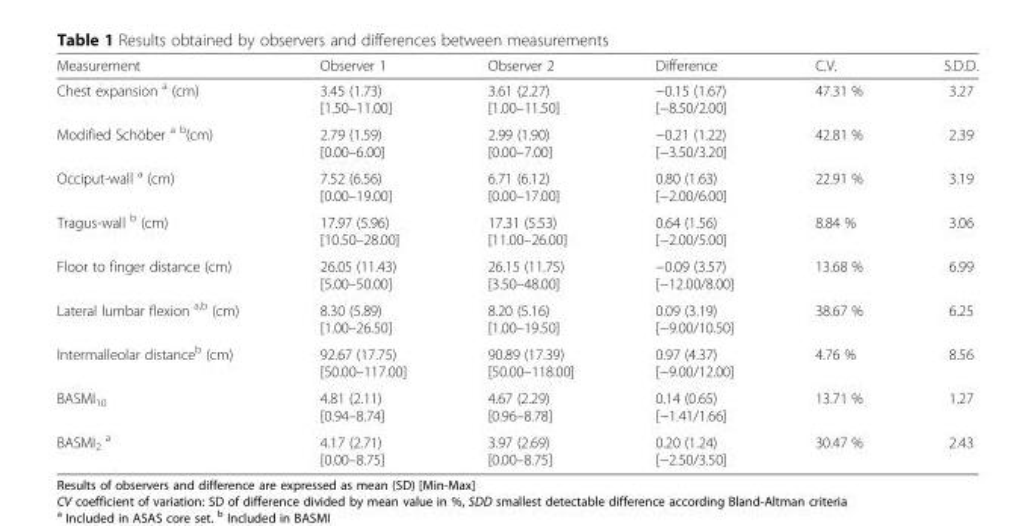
<table><thead><tr><td>Measurement</td><td>Observer 1</td><td>Observer 2</td><td>Difference</td><td>C.V.</td><td>S.D.D.</td></tr></thead><tbody><tr><td>Chest expansion <sup>a</sup> (cm)</td><td>3.45 (1.73) [1.50–11.00]</td><td>3.61 (2.27) [1.00–11.50]</td><td>−0.15 (1.67) [−8.50/2.00]</td><td>47.31 %</td><td>3.27</td></tr><tr><td>Modified Schöber <sup>a b</sup>(cm)</td><td>2.79 (1.59) [0.00–6.00]</td><td>2.99 (1.90) [0.00–7.00]</td><td>−0.21 (1.22) [−3.50/3.20]</td><td>42.81 %</td><td>2.39</td></tr><tr><td>Occiput-wall <sup>a</sup> (cm)</td><td>7.52 (6.56) [0.00–19.00]</td><td>6.71 (6.12) [0.00–17.00]</td><td>0.80 (1.63) [−2.00/6.00]</td><td>22.91 %</td><td>3.19</td></tr><tr><td>Tragus-wall <sup>b</sup> (cm)</td><td>17.97 (5.96) [10.50–28.00]</td><td>17.31 (5.53) [11.00–26.00]</td><td>0.64 (1.56) [−2.00/5.00]</td><td>8.84 %</td><td>3.06</td></tr><tr><td>Floor to finger distance (cm)</td><td>26.05 (11.43) [5.00–50.00]</td><td>26.15 (11.75) [3.50–48.00]</td><td>−0.09 (3.57) [−12.00/8.00]</td><td>13.68 %</td><td>6.99</td></tr><tr><td>Lateral lumbar flexion <sup>a,b</sup> (cm)</td><td>8.30 (5.89) [1.00–26.50]</td><td>8.20 (5.16) [1.00–19.50]</td><td>0.09 (3.19) [−9.00/10.50]</td><td>38.67 %</td><td>6.25</td></tr><tr><td>Intermalleolar distance<sup>b</sup> (cm)</td><td>92.67 (17.75) [50.00–117.00]</td><td>90.89 (17.39) [50.00–118.00]</td><td>0.97 (4.37) [−9.00/12.00]</td><td>4.76 %</td><td>8.56</td></tr><tr><td>BASMI<sub>10</sub></td><td>4.81 (2.11) [0.94–8.74]</td><td>4.67 (2.29) [0.96–8.78]</td><td>0.14 (0.65) [−1.41/1.66]</td><td>13.71 %</td><td>1.27</td></tr><tr><td>BASMI<sub>2</sub> <sup>a</sup></td><td>4.17 (2.71) [0.00–8.75]</td><td>3.97 (2.69) [0.00–8.75]</td><td>0.20 (1.24) [−2.50/3.50]</td><td>30.47 %</td><td>2.43</td></tr></tbody></table>